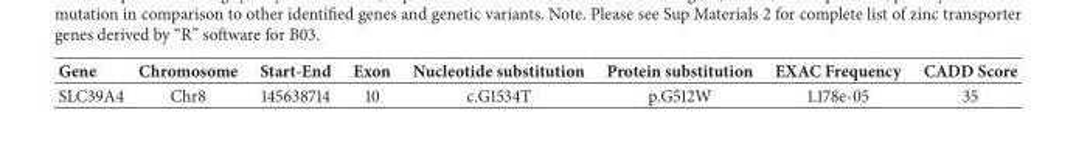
<table><thead><tr><td>Gene</td><td>Chromosome</td><td>Start-End</td><td>Exon</td><td>Nucleotide substitution</td><td>Protein substitution</td><td>EXAC Frequency</td><td>CADD Score</td></tr></thead><tbody><tr><td>SLC39A4</td><td>Chr8</td><td>145638714</td><td>10</td><td>c.G1534T</td><td>p.G512W</td><td>1.178e-05</td><td>35</td></tr></tbody></table>